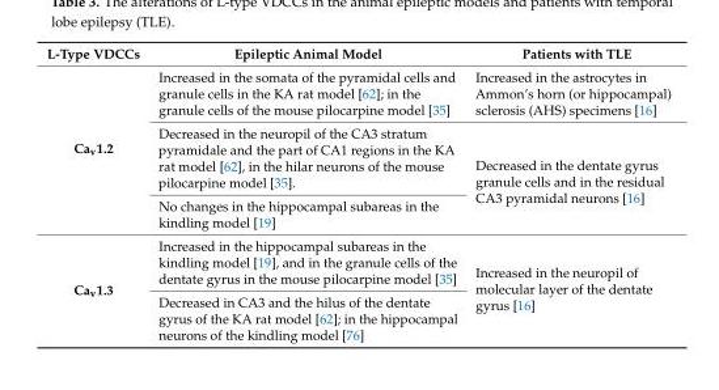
<table><thead><tr><td>L-Type VDCCs</td><td>Epileptic Animal Model</td><td>Patients with TLE</td></tr></thead><tbody><tr><td rowspan="3">Ca<sub>v</sub>1.2</td><td>Increased in the somata of the pyramidal cells and granule cells in the KA rat model [62]; in the granule cells of the mouse pilocarpine model [35]</td><td>Increased in the astrocytes in Ammon’s horn (or hippocampal) sclerosis (AHS) specimens [16]</td></tr><tr><td>Decreased in the neuropil of the CA3 stratum pyramidale and the part of CA1 regions in the KA rat model [62], in the hilar neurons of the mouse pilocarpine model [35].</td><td rowspan="2">Decreased in the dentate gyrus granule cells and in the residual CA3 pyramidal neurons [16]</td></tr><tr><td>No changes in the hippocampal subareas in the kindling model [19]</td></tr><tr><td rowspan="2">Ca<sub>v</sub>1.3</td><td>Increased in the hippocampal subareas in the kindling model [19], and in the granule cells of the dentate gyrus in the mouse pilocarpine model [35]</td><td rowspan="2">Increased in the neuropil of molecular layer of the dentate gyrus [16]</td></tr><tr><td>Decreased in CA3 and the hilus of the dentate gyrus of the KA rat model [62]; in the hippocampal neurons of the kindling model [76]</td></tr></tbody></table>